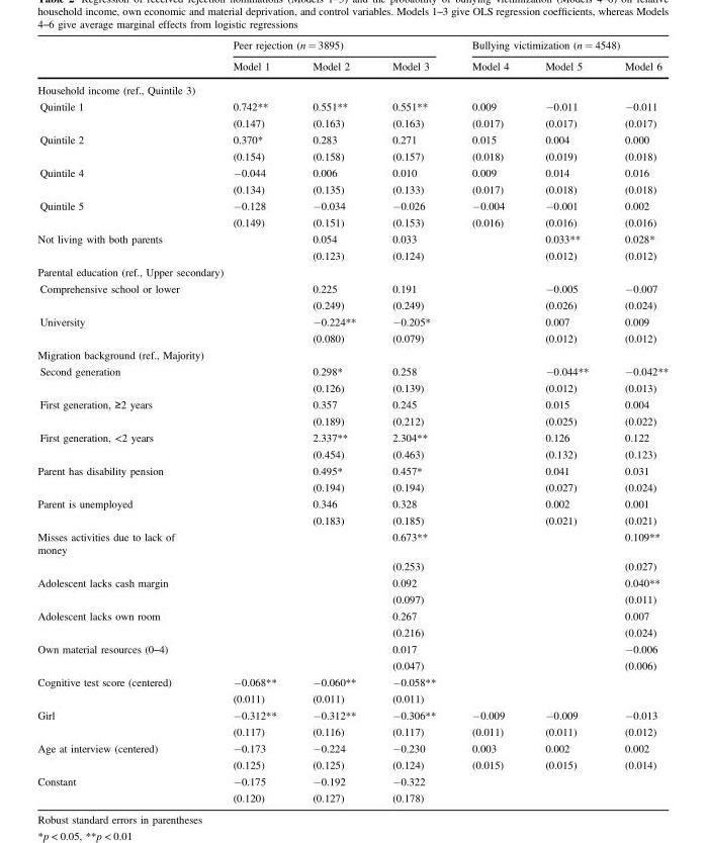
<table><thead><tr><td rowspan="2"></td><td colspan="3">Peer rejection (n = 3895)</td><td colspan="3">Bullying victimization (n = 4548)</td></tr><tr><td>Model 1</td><td>Model 2</td><td>Model 3</td><td>Model 4</td><td>Model 5</td><td>Model 6</td></tr></thead><tbody><tr><td colspan="7">Household income (ref., Quintile 3)</td></tr><tr><td rowspan="2">Quintile 1</td><td>0.742**</td><td>0.551**</td><td>0.551**</td><td>0.009</td><td>−0.011</td><td>−0.011</td></tr><tr><td>(0.147)</td><td>(0.163)</td><td>(0.163)</td><td>(0.017)</td><td>(0.017)</td><td>(0.017)</td></tr><tr><td rowspan="2">Quintile 2</td><td>0.370*</td><td>0.283</td><td>0.271</td><td>0.015</td><td>0.004</td><td>0.000</td></tr><tr><td>(0.154)</td><td>(0.158)</td><td>(0.157)</td><td>(0.018)</td><td>(0.019)</td><td>(0.018)</td></tr><tr><td rowspan="2">Quintile 4</td><td>−0.044</td><td>0.006</td><td>0.010</td><td>0.009</td><td>0.014</td><td>0.016</td></tr><tr><td>(0.134)</td><td>(0.135)</td><td>(0.133)</td><td>(0.017)</td><td>(0.018)</td><td>(0.018)</td></tr><tr><td rowspan="2">Quintile 5</td><td>−0.128</td><td>−0.034</td><td>−0.026</td><td>−0.004</td><td>−0.001</td><td>0.002</td></tr><tr><td>(0.149)</td><td>(0.151)</td><td>(0.153)</td><td>(0.016)</td><td>(0.016)</td><td>(0.016)</td></tr><tr><td rowspan="2">Not living with both parents</td><td></td><td>0.054</td><td>0.033</td><td></td><td>0.033**</td><td>0.028*</td></tr><tr><td></td><td>(0.123)</td><td>(0.124)</td><td></td><td>(0.012)</td><td>(0.012)</td></tr><tr><td colspan="7">Parental education (ref., Upper secondary)</td></tr><tr><td rowspan="2">Comprehensive school or lower</td><td></td><td>0.225</td><td>0.191</td><td></td><td>−0.005</td><td>−0.007</td></tr><tr><td></td><td>(0.249)</td><td>(0.249)</td><td></td><td>(0.026)</td><td>(0.024)</td></tr><tr><td rowspan="2">University</td><td></td><td>−0.224**</td><td>−0.205*</td><td></td><td>0.007</td><td>0.009</td></tr><tr><td></td><td>(0.080)</td><td>(0.079)</td><td></td><td>(0.012)</td><td>(0.012)</td></tr><tr><td colspan="7">Migration background (ref., Majority)</td></tr><tr><td rowspan="2">Second generation</td><td></td><td>0.298*</td><td>0.258</td><td></td><td>−0.044**</td><td>−0.042**</td></tr><tr><td></td><td>(0.126)</td><td>(0.139)</td><td></td><td>(0.012)</td><td>(0.013)</td></tr><tr><td rowspan="2">First generation, ≥2 years</td><td></td><td>0.357</td><td>0.245</td><td></td><td>0.015</td><td>0.004</td></tr><tr><td></td><td>(0.189)</td><td>(0.212)</td><td></td><td>(0.025)</td><td>(0.022)</td></tr><tr><td rowspan="2">First generation, &lt;2 years</td><td></td><td>2.337**</td><td>2.304**</td><td></td><td>0.126</td><td>0.122</td></tr><tr><td></td><td>(0.454)</td><td>(0.463)</td><td></td><td>(0.132)</td><td>(0.123)</td></tr><tr><td rowspan="2">Parent has disability pension</td><td></td><td>0.495*</td><td>0.457*</td><td></td><td>0.041</td><td>0.031</td></tr><tr><td></td><td>(0.194)</td><td>(0.194)</td><td></td><td>(0.027)</td><td>(0.024)</td></tr><tr><td rowspan="2">Parent is unemployed</td><td></td><td>0.346</td><td>0.328</td><td></td><td>0.002</td><td>0.001</td></tr><tr><td></td><td>(0.183)</td><td>(0.185)</td><td></td><td>(0.021)</td><td>(0.021)</td></tr><tr><td rowspan="2">Misses activities due to lack of money</td><td></td><td></td><td>0.673**</td><td></td><td></td><td>0.109**</td></tr><tr><td></td><td></td><td>(0.253)</td><td></td><td></td><td>(0.027)</td></tr><tr><td rowspan="2">Adolescent lacks cash margin</td><td></td><td></td><td>0.092</td><td></td><td></td><td>0.040**</td></tr><tr><td></td><td></td><td>(0.097)</td><td></td><td></td><td>(0.011)</td></tr><tr><td rowspan="2">Adolescent lacks own room</td><td></td><td></td><td>0.267</td><td></td><td></td><td>0.007</td></tr><tr><td></td><td></td><td>(0.216)</td><td></td><td></td><td>(0.024)</td></tr><tr><td rowspan="2">Own material resources (0–4)</td><td></td><td></td><td>0.017</td><td></td><td></td><td>−0.006</td></tr><tr><td></td><td></td><td>(0.047)</td><td></td><td></td><td>(0.006)</td></tr><tr><td rowspan="2">Cognitive test score (centered)</td><td>−0.068**</td><td>−0.060**</td><td>−0.058**</td><td></td><td></td><td></td></tr><tr><td>(0.011)</td><td>(0.011)</td><td>(0.011)</td><td></td><td></td><td></td></tr><tr><td rowspan="2">Girl</td><td>−0.312**</td><td>−0.312**</td><td>−0.306**</td><td>−0.009</td><td>−0.009</td><td>−0.013</td></tr><tr><td>(0.117)</td><td>(0.116)</td><td>(0.117)</td><td>(0.011)</td><td>(0.011)</td><td>(0.012)</td></tr><tr><td rowspan="2">Age at interview (centered)</td><td>−0.173</td><td>−0.224</td><td>−0.230</td><td>0.003</td><td>0.002</td><td>0.002</td></tr><tr><td>(0.125)</td><td>(0.125)</td><td>(0.124)</td><td>(0.015)</td><td>(0.015)</td><td>(0.014)</td></tr><tr><td rowspan="2">Constant</td><td>−0.175</td><td>−0.192</td><td>−0.322</td><td></td><td></td><td></td></tr><tr><td>(0.120)</td><td>(0.127)</td><td>(0.178)</td><td></td><td></td><td></td></tr></tbody></table>